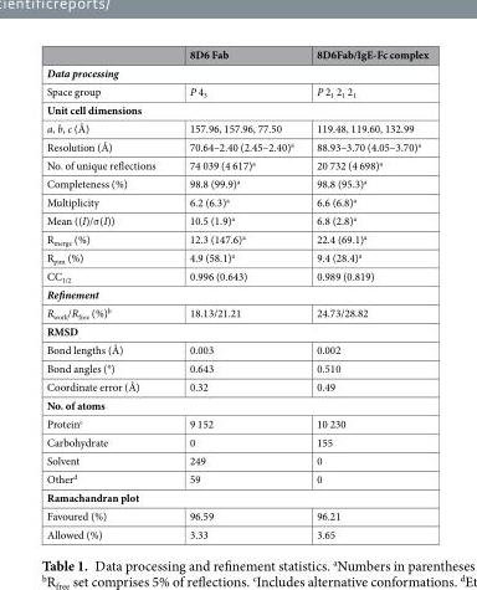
<table><thead><tr><td></td><td>8D6 Fab</td><td>8D6Fab/IgE-Fc complex</td></tr></thead><tbody><tr><td colspan="3">Data processing</td></tr><tr><td>Space group</td><td>P 4<sub>3</sub></td><td>P 2<sub>1</sub> 2<sub>1</sub> 2<sub>1</sub></td></tr><tr><td colspan="3">Unit cell dimensions</td></tr><tr><td>a, b, c (Å)</td><td>157.96, 157.96, 77.50</td><td>119.48, 119.60, 132.99</td></tr><tr><td>Resolution (Å)</td><td>70.64–2.40 (2.45–2.40)<sup>a</sup></td><td>88.93–3.70 (4.05–3.70)<sup>a</sup></td></tr><tr><td>No. of unique reflections</td><td>74 039 (4 617)<sup>a</sup></td><td>20 732 (4 698)<sup>a</sup></td></tr><tr><td>Completeness (%)</td><td>98.8 (99.9)<sup>a</sup></td><td>98.8 (95.3)<sup>a</sup></td></tr><tr><td>Multiplicity</td><td>6.2 (6.3)<sup>a</sup></td><td>6.6 (6.8)<sup>a</sup></td></tr><tr><td>Mean ((I)/σ(I))</td><td>10.5 (1.9)<sup>a</sup></td><td>6.8 (2.8)<sup>a</sup></td></tr><tr><td>R<sub>merge</sub> (%)</td><td>12.3 (147.6)<sup>a</sup></td><td>22.4 (69.1)<sup>a</sup></td></tr><tr><td>R<sub>pim</sub> (%)</td><td>4.9 (58.1)<sup>a</sup></td><td>9.4 (28.4)<sup>a</sup></td></tr><tr><td>CC<sub>1/2</sub></td><td>0.996 (0.643)</td><td>0.989 (0.819)</td></tr><tr><td colspan="3">Refinement</td></tr><tr><td>R<sub>work</sub>/R<sub>free</sub> (%)<sup>b</sup></td><td>18.13/21.21</td><td>24.73/28.82</td></tr><tr><td colspan="3">RMSD</td></tr><tr><td>Bond lengths (Å)</td><td>0.003</td><td>0.002</td></tr><tr><td>Bond angles (°)</td><td>0.643</td><td>0.510</td></tr><tr><td>Coordinate error (Å)</td><td>0.32</td><td>0.49</td></tr><tr><td colspan="3">No. of atoms</td></tr><tr><td>Protein<sup>c</sup></td><td>9 152</td><td>10 230</td></tr><tr><td>Carbohydrate</td><td>0</td><td>155</td></tr><tr><td>Solvent</td><td>249</td><td>0</td></tr><tr><td>Other<sup>d</sup></td><td>59</td><td>0</td></tr><tr><td colspan="3">Ramachandran plot</td></tr><tr><td>Favoured (%)</td><td>96.59</td><td>96.21</td></tr><tr><td>Allowed (%)</td><td>3.33</td><td>3.65</td></tr></tbody></table>